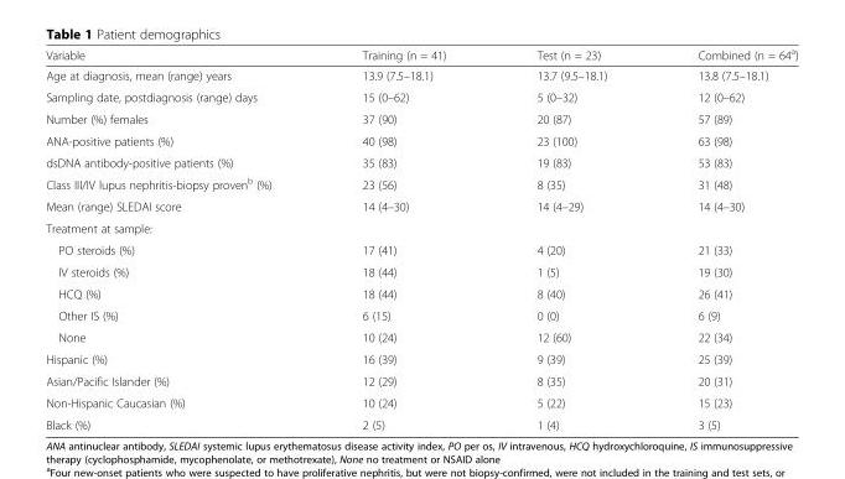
<table><thead><tr><td>Variable</td><td>Training (n = 41)</td><td>Test (n = 23)</td><td>Combined (n = 64<sup>a</sup>)</td></tr></thead><tbody><tr><td>Age at diagnosis, mean (range) years</td><td>13.9 (7.5–18.1)</td><td>13.7 (9.5–18.1)</td><td>13.8 (7.5–18.1)</td></tr><tr><td>Sampling date, postdiagnosis (range) days</td><td>15 (0–62)</td><td>5 (0–32)</td><td>12 (0–62)</td></tr><tr><td>Number (%) females</td><td>37 (90)</td><td>20 (87)</td><td>57 (89)</td></tr><tr><td>ANA-positive patients (%)</td><td>40 (98)</td><td>23 (100)</td><td>63 (98)</td></tr><tr><td>dsDNA antibody-positive patients (%)</td><td>35 (83)</td><td>19 (83)</td><td>53 (83)</td></tr><tr><td>Class III/IV lupus nephritis-biopsy proven<sup>b</sup> (%)</td><td>23 (56)</td><td>8 (35)</td><td>31 (48)</td></tr><tr><td>Mean (range) SLEDAI score</td><td>14 (4–30)</td><td>14 (4–29)</td><td>14 (4–30)</td></tr><tr><td colspan="4">Treatment at sample:</td></tr><tr><td>PO steroids (%)</td><td>17 (41)</td><td>4 (20)</td><td>21 (33)</td></tr><tr><td>IV steroids (%)</td><td>18 (44)</td><td>1 (5)</td><td>19 (30)</td></tr><tr><td>HCQ (%)</td><td>18 (44)</td><td>8 (40)</td><td>26 (41)</td></tr><tr><td>Other IS (%)</td><td>6 (15)</td><td>0 (0)</td><td>6 (9)</td></tr><tr><td>None</td><td>10 (24)</td><td>12 (60)</td><td>22 (34)</td></tr><tr><td>Hispanic (%)</td><td>16 (39)</td><td>9 (39)</td><td>25 (39)</td></tr><tr><td>Asian/Pacific Islander (%)</td><td>12 (29)</td><td>8 (35)</td><td>20 (31)</td></tr><tr><td>Non-Hispanic Caucasian (%)</td><td>10 (24)</td><td>5 (22)</td><td>15 (23)</td></tr><tr><td>Black (%)</td><td>2 (5)</td><td>1 (4)</td><td>3 (5)</td></tr></tbody></table>